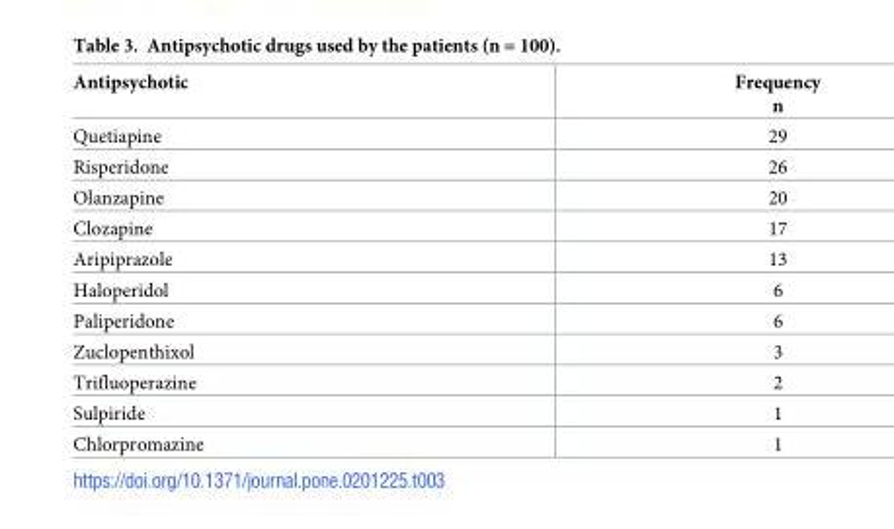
<table><thead><tr><td>Antipsychotic</td><td>Frequency n</td></tr></thead><tbody><tr><td>Quetiapine</td><td>29</td></tr><tr><td>Risperidone</td><td>26</td></tr><tr><td>Olanzapine</td><td>20</td></tr><tr><td>Clozapine</td><td>17</td></tr><tr><td>Aripiprazole</td><td>13</td></tr><tr><td>Haloperidol</td><td>6</td></tr><tr><td>Paliperidone</td><td>6</td></tr><tr><td>Zuclopenthixol</td><td>3</td></tr><tr><td>Trifluoperazine</td><td>2</td></tr><tr><td>Sulpiride</td><td>1</td></tr><tr><td>Chlorpromazine</td><td>1</td></tr></tbody></table>